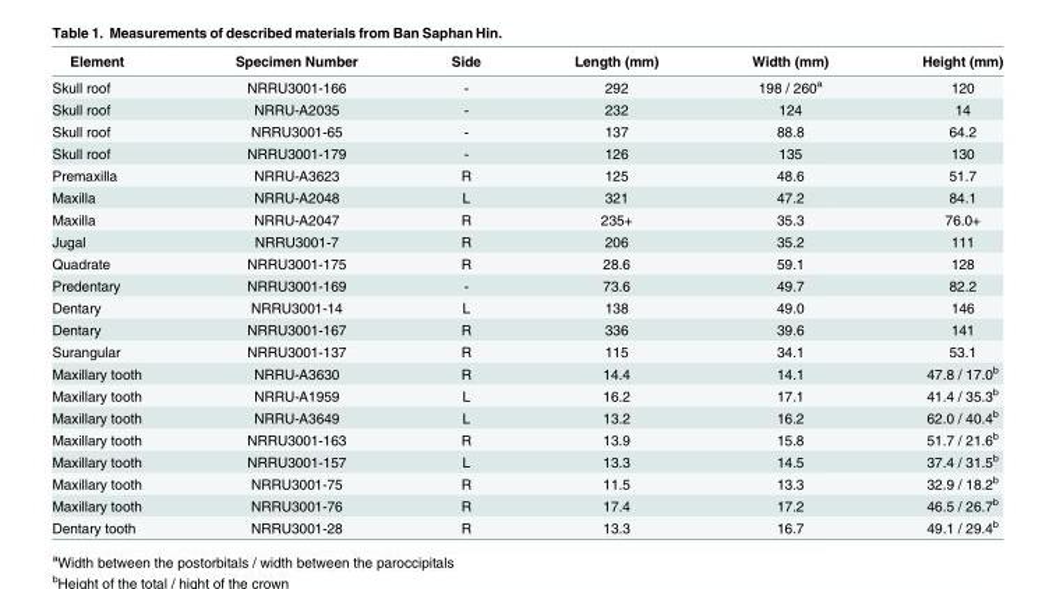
<table><thead><tr><td>Element</td><td>Specimen Number</td><td>Side</td><td>Length (mm)</td><td>Width (mm)</td><td>Height (mm)</td></tr></thead><tbody><tr><td>Skull roof</td><td>NRRU3001-166</td><td>-</td><td>292</td><td>198 / 260<sup>a</sup></td><td>120</td></tr><tr><td>Skull roof</td><td>NRRU-A2035</td><td>-</td><td>232</td><td>124</td><td>14</td></tr><tr><td>Skull roof</td><td>NRRU3001-65</td><td>-</td><td>137</td><td>88.8</td><td>64.2</td></tr><tr><td>Skull roof</td><td>NRRU3001-179</td><td>-</td><td>126</td><td>135</td><td>130</td></tr><tr><td>Premaxilla</td><td>NRRU-A3623</td><td>R</td><td>125</td><td>48.6</td><td>51.7</td></tr><tr><td>Maxilla</td><td>NRRU-A2048</td><td>L</td><td>321</td><td>47.2</td><td>84.1</td></tr><tr><td>Maxilla</td><td>NRRU-A2047</td><td>R</td><td>235+</td><td>35.3</td><td>76.0+</td></tr><tr><td>Jugal</td><td>NRRU3001-7</td><td>R</td><td>206</td><td>35.2</td><td>111</td></tr><tr><td>Quadrate</td><td>NRRU3001-175</td><td>R</td><td>28.6</td><td>59.1</td><td>128</td></tr><tr><td>Predentary</td><td>NRRU3001-169</td><td>-</td><td>73.6</td><td>49.7</td><td>82.2</td></tr><tr><td>Dentary</td><td>NRRU3001-14</td><td>L</td><td>138</td><td>49.0</td><td>146</td></tr><tr><td>Dentary</td><td>NRRU3001-167</td><td>R</td><td>336</td><td>39.6</td><td>141</td></tr><tr><td>Surangular</td><td>NRRU3001-137</td><td>R</td><td>115</td><td>34.1</td><td>53.1</td></tr><tr><td>Maxillary tooth</td><td>NRRU-A3630</td><td>R</td><td>14.4</td><td>14.1</td><td>47.8 / 17.0<sup>b</sup></td></tr><tr><td>Maxillary tooth</td><td>NRRU-A1959</td><td>L</td><td>16.2</td><td>17.1</td><td>41.4 / 35.3<sup>b</sup></td></tr><tr><td>Maxillary tooth</td><td>NRRU-A3649</td><td>L</td><td>13.2</td><td>16.2</td><td>62.0 / 40.4<sup>b</sup></td></tr><tr><td>Maxillary tooth</td><td>NRRU3001-163</td><td>R</td><td>13.9</td><td>15.8</td><td>51.7 / 21.6<sup>b</sup></td></tr><tr><td>Maxillary tooth</td><td>NRRU3001-157</td><td>L</td><td>13.3</td><td>14.5</td><td>37.4 / 31.5<sup>b</sup></td></tr><tr><td>Maxillary tooth</td><td>NRRU3001-75</td><td>R</td><td>11.5</td><td>13.3</td><td>32.9 / 18.2<sup>b</sup></td></tr><tr><td>Maxillary tooth</td><td>NRRU3001-76</td><td>R</td><td>17.4</td><td>17.2</td><td>46.5 / 26.7<sup>b</sup></td></tr><tr><td>Dentary tooth</td><td>NRRU3001-28</td><td>R</td><td>13.3</td><td>16.7</td><td>49.1 / 29.4<sup>b</sup></td></tr></tbody></table>